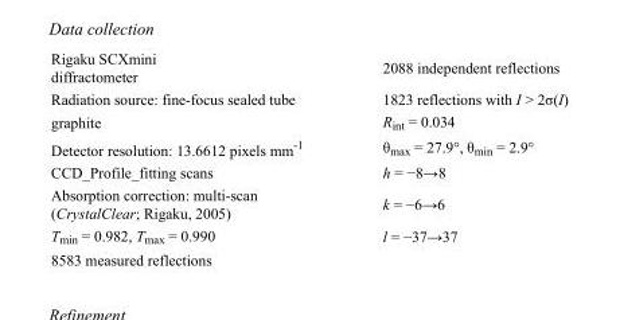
<table><tbody><tr><td>Rigaku SCXmini diffractometer</td><td>2088 independent reflections</td></tr><tr><td>Radiation source: fine-focus sealed tube</td><td>1823 reflections with I &gt; 2σ(I)</td></tr><tr><td>graphite</td><td>R<sub>int</sub> = 0.034</td></tr><tr><td>Detector resolution: 13.6612 pixels mm<sup>-1</sup></td><td>θ<sub>max</sub> = 27.9°, θ<sub>min</sub> = 2.9°</td></tr><tr><td>CCD_Profile_fitting scans</td><td>h = −8→8</td></tr><tr><td>Absorption correction: multi-scan (CrystalClear; Rigaku, 2005)</td><td>k = −6→6</td></tr><tr><td>T<sub>min</sub> = 0.982, T<sub>max</sub> = 0.990</td><td>l = −37→37</td></tr><tr><td>8583 measured reflections</td><td></td></tr></tbody></table>